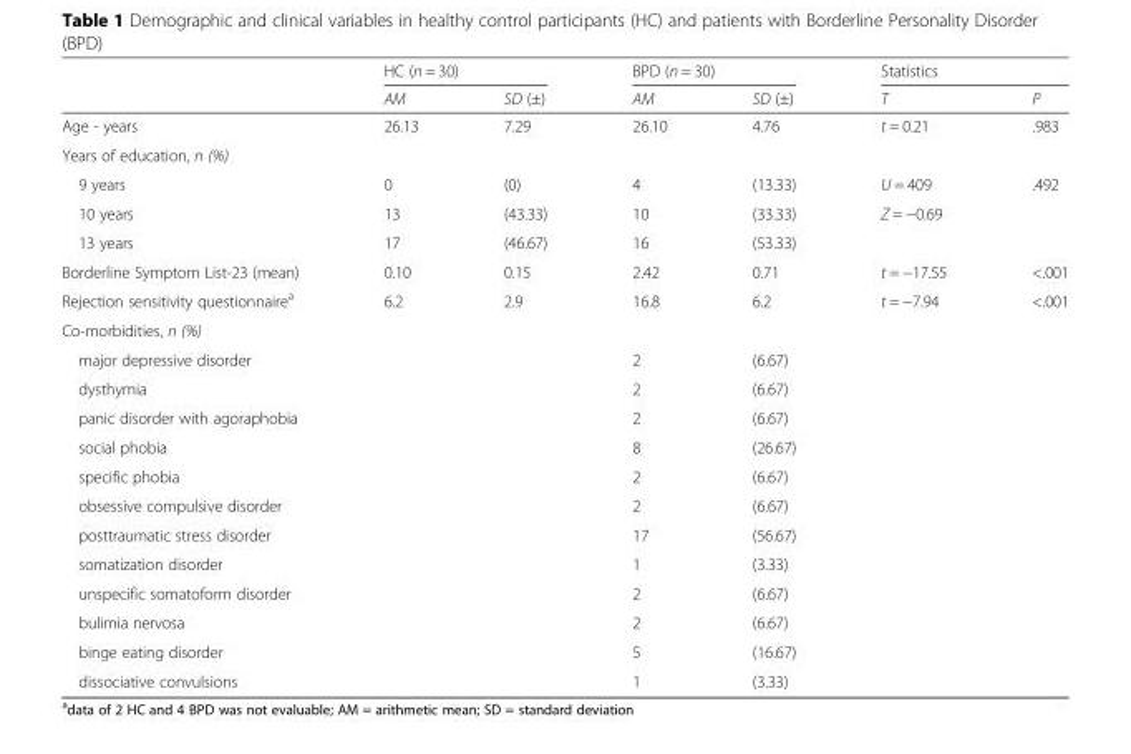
<table><thead><tr><td rowspan="2"></td><td colspan="2">HC (n = 30)</td><td colspan="2">BPD (n = 30)</td><td colspan="2">Statistics</td></tr><tr><td>AM</td><td>SD (±)</td><td>AM</td><td>SD (±)</td><td>T</td><td>P</td></tr></thead><tbody><tr><td>Age - years</td><td>26.13</td><td>7.29</td><td>26.10</td><td>4.76</td><td>t = 0.21</td><td>.983</td></tr><tr><td colspan="7">Years of education, n (%)</td></tr><tr><td>9 years</td><td>0</td><td>(0)</td><td>4</td><td>(13.33)</td><td>U = 409</td><td>.492</td></tr><tr><td>10 years</td><td>13</td><td>(43.33)</td><td>10</td><td>(33.33)</td><td>Z = −0.69</td><td></td></tr><tr><td>13 years</td><td>17</td><td>(46.67)</td><td>16</td><td>(53.33)</td><td></td><td></td></tr><tr><td>Borderline Symptom List-23 (mean)</td><td>0.10</td><td>0.15</td><td>2.42</td><td>0.71</td><td>t = −17.55</td><td>&lt;.001</td></tr><tr><td>Rejection sensitivity questionnaire<sup>a</sup></td><td>6.2</td><td>2.9</td><td>16.8</td><td>6.2</td><td>t = −7.94</td><td>&lt;.001</td></tr><tr><td colspan="7">Co-morbidities, n (%)</td></tr><tr><td>major depressive disorder</td><td></td><td></td><td>2</td><td>(6.67)</td><td></td><td></td></tr><tr><td>dysthymia</td><td></td><td></td><td>2</td><td>(6.67)</td><td></td><td></td></tr><tr><td>panic disorder with agoraphobia</td><td></td><td></td><td>2</td><td>(6.67)</td><td></td><td></td></tr><tr><td>social phobia</td><td></td><td></td><td>8</td><td>(26.67)</td><td></td><td></td></tr><tr><td>specific phobia</td><td></td><td></td><td>2</td><td>(6.67)</td><td></td><td></td></tr><tr><td>obsessive compulsive disorder</td><td></td><td></td><td>2</td><td>(6.67)</td><td></td><td></td></tr><tr><td>posttraumatic stress disorder</td><td></td><td></td><td>17</td><td>(56.67)</td><td></td><td></td></tr><tr><td>somatization disorder</td><td></td><td></td><td>1</td><td>(3.33)</td><td></td><td></td></tr><tr><td>unspecific somatoform disorder</td><td></td><td></td><td>2</td><td>(6.67)</td><td></td><td></td></tr><tr><td>bulimia nervosa</td><td></td><td></td><td>2</td><td>(6.67)</td><td></td><td></td></tr><tr><td>binge eating disorder</td><td></td><td></td><td>5</td><td>(16.67)</td><td></td><td></td></tr><tr><td>dissociative convulsions</td><td></td><td></td><td>1</td><td>(3.33)</td><td></td><td></td></tr></tbody></table>